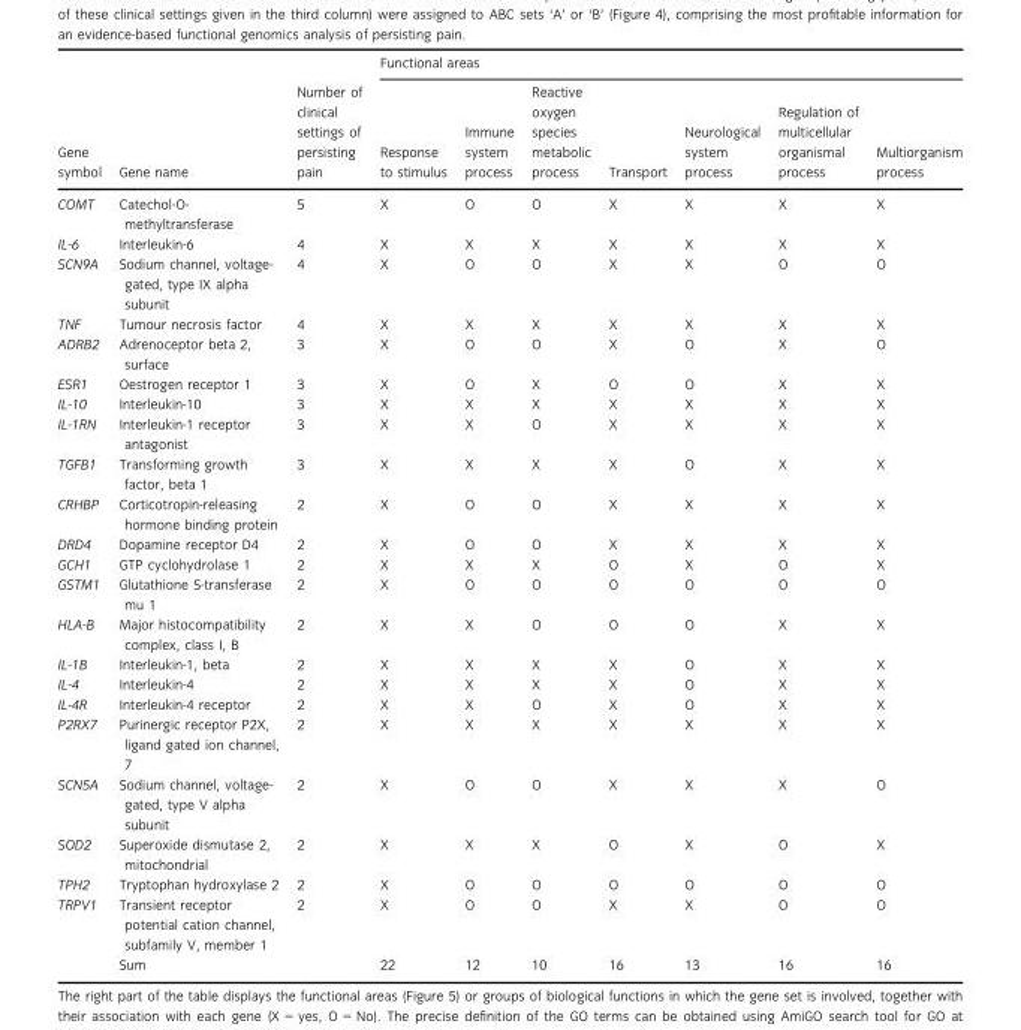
<table><thead><tr><td rowspan="2">Gene symbol</td><td rowspan="2">Gene name</td><td rowspan="2">Number of clinical settings of persisting pain</td><td colspan="7">Functional areas</td></tr><tr><td>Response to stimulus</td><td>Immune system process</td><td>Reactive oxygen species metabolic process</td><td>Transport</td><td>Neurological system process</td><td>Regulation of multicellular organismal process</td><td>Multiorganism process</td></tr></thead><tbody><tr><td>COMT</td><td>Catechol-O- methyltransferase</td><td>5</td><td>X</td><td>O</td><td>O</td><td>X</td><td>X</td><td>X</td><td>X</td></tr><tr><td>IL-6</td><td>Interleukin-6</td><td>4</td><td>X</td><td>X</td><td>X</td><td>X</td><td>X</td><td>X</td><td>X</td></tr><tr><td>SCN9A</td><td>Sodium channel, voltage- gated, type IX alpha subunit</td><td>4</td><td>X</td><td>O</td><td>O</td><td>X</td><td>X</td><td>O</td><td>O</td></tr><tr><td>TNF</td><td>Tumour necrosis factor</td><td>4</td><td>X</td><td>X</td><td>X</td><td>X</td><td>X</td><td>X</td><td>X</td></tr><tr><td>ADRB2</td><td>Adrenoceptor beta 2, surface</td><td>3</td><td>X</td><td>O</td><td>O</td><td>X</td><td>O</td><td>X</td><td>O</td></tr><tr><td>ESR1</td><td>Oestrogen receptor 1</td><td>3</td><td>X</td><td>O</td><td>X</td><td>O</td><td>O</td><td>X</td><td>X</td></tr><tr><td>IL-10</td><td>Interleukin-10</td><td>3</td><td>X</td><td>X</td><td>X</td><td>X</td><td>X</td><td>X</td><td>X</td></tr><tr><td>IL-1RN</td><td>Interleukin-1 receptor antagonist</td><td>3</td><td>X</td><td>X</td><td>O</td><td>X</td><td>X</td><td>X</td><td>X</td></tr><tr><td>TGFB1</td><td>Transforming growth factor, beta 1</td><td>3</td><td>X</td><td>X</td><td>X</td><td>X</td><td>O</td><td>X</td><td>X</td></tr><tr><td>CRHBP</td><td>Corticotropin-releasing hormone binding protein</td><td>2</td><td>X</td><td>O</td><td>O</td><td>X</td><td>X</td><td>X</td><td>X</td></tr><tr><td>DRD4</td><td>Dopamine receptor D4</td><td>2</td><td>X</td><td>O</td><td>O</td><td>X</td><td>X</td><td>X</td><td>X</td></tr><tr><td>GCH1</td><td>GTP cyclohydrolase 1</td><td>2</td><td>X</td><td>X</td><td>X</td><td>O</td><td>X</td><td>O</td><td>X</td></tr><tr><td>GSTM1</td><td>Glutathione S-transferase mu 1</td><td>2</td><td>X</td><td>O</td><td>O</td><td>O</td><td>O</td><td>O</td><td>O</td></tr><tr><td>HLA-B</td><td>Major histocompatibility complex, class I, B</td><td>2</td><td>X</td><td>X</td><td>O</td><td>O</td><td>O</td><td>X</td><td>X</td></tr><tr><td>IL-1B</td><td>Interleukin-1, beta</td><td>2</td><td>X</td><td>X</td><td>X</td><td>X</td><td>O</td><td>X</td><td>X</td></tr><tr><td>IL-4</td><td>Interleukin-4</td><td>2</td><td>X</td><td>X</td><td>X</td><td>X</td><td>O</td><td>X</td><td>X</td></tr><tr><td>IL-4R</td><td>Interleukin-4 receptor</td><td>2</td><td>X</td><td>X</td><td>O</td><td>X</td><td>O</td><td>X</td><td>X</td></tr><tr><td>P2RX7</td><td>Purinergic receptor P2X, ligand gated ion channel, 7</td><td>2</td><td>X</td><td>X</td><td>X</td><td>X</td><td>X</td><td>X</td><td>X</td></tr><tr><td>SCN5A</td><td>Sodium channel, voltage- gated, type V alpha subunit</td><td>2</td><td>X</td><td>O</td><td>O</td><td>X</td><td>X</td><td>X</td><td>O</td></tr><tr><td>SOD2</td><td>Superoxide dismutase 2, mitochondrial</td><td>2</td><td>X</td><td>X</td><td>X</td><td>O</td><td>X</td><td>O</td><td>X</td></tr><tr><td>TPH2</td><td>Tryptophan hydroxylase 2</td><td>2</td><td>X</td><td>O</td><td>O</td><td>O</td><td>O</td><td>O</td><td>O</td></tr><tr><td rowspan="2">TRPV1</td><td>Transient receptor potential cation channel, subfamily V, member 1</td><td>2</td><td>X</td><td>O</td><td>O</td><td>X</td><td>X</td><td>O</td><td>O</td></tr><tr><td>Sum</td><td></td><td>22</td><td>12</td><td>10</td><td>16</td><td>13</td><td>16</td><td>16</td></tr></tbody></table>